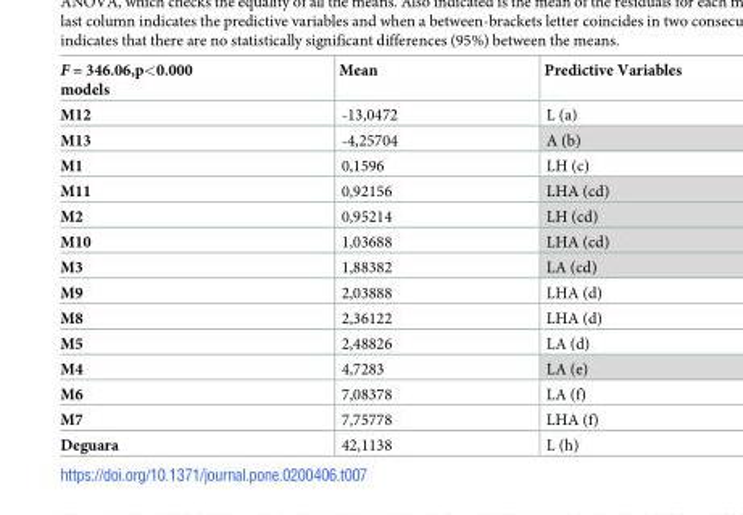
<table><thead><tr><td>F = 346.06,p&lt;0.000 models</td><td>Mean</td><td>Predictive Variables</td></tr></thead><tbody><tr><td>M12</td><td>-13,0472</td><td>L (a)</td></tr><tr><td>M13</td><td>-4,25704</td><td>A (b)</td></tr><tr><td>M1</td><td>0,1596</td><td>LH (c)</td></tr><tr><td>M11</td><td>0,92156</td><td>LHA (cd)</td></tr><tr><td>M2</td><td>0,95214</td><td>LH (cd)</td></tr><tr><td>M10</td><td>1,03688</td><td>LHA (cd)</td></tr><tr><td>M3</td><td>1,88382</td><td>LA (cd)</td></tr><tr><td>M9</td><td>2,03888</td><td>LHA (d)</td></tr><tr><td>M8</td><td>2,36122</td><td>LHA (d)</td></tr><tr><td>M5</td><td>2,48826</td><td>LA (d)</td></tr><tr><td>M4</td><td>4,7283</td><td>LA (e)</td></tr><tr><td>M6</td><td>7,08378</td><td>LA (f)</td></tr><tr><td>M7</td><td>7,75778</td><td>LHA (f)</td></tr><tr><td>Deguara</td><td>42,1138</td><td>L (h)</td></tr></tbody></table>